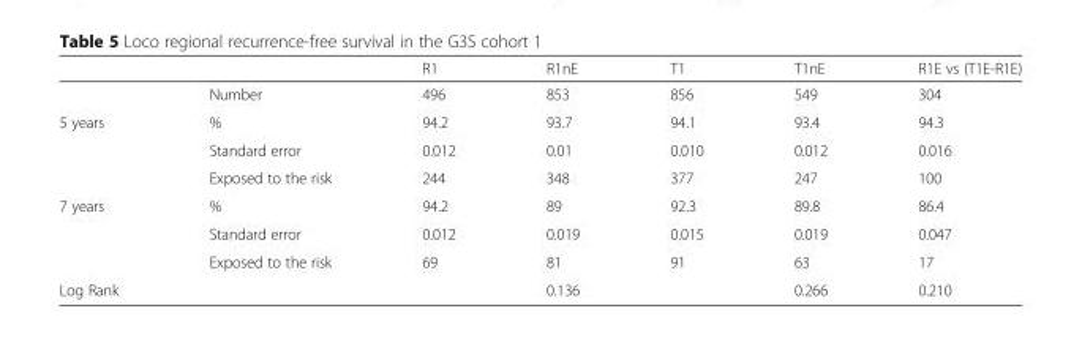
<table><thead><tr><td></td><td></td><td>R1</td><td>R1nE</td><td>T1</td><td>T1nE</td><td>R1E vs (T1E-R1E)</td></tr></thead><tbody><tr><td></td><td>Number</td><td>496</td><td>853</td><td>856</td><td>549</td><td>304</td></tr><tr><td rowspan="3">5 years</td><td>%</td><td>94.2</td><td>93.7</td><td>94.1</td><td>93.4</td><td>94.3</td></tr><tr><td>Standard error</td><td>0.012</td><td>0.01</td><td>0.010</td><td>0.012</td><td>0.016</td></tr><tr><td>Exposed to the risk</td><td>244</td><td>348</td><td>377</td><td>247</td><td>100</td></tr><tr><td rowspan="3">7 years</td><td>%</td><td>94.2</td><td>89</td><td>92.3</td><td>89.8</td><td>86.4</td></tr><tr><td>Standard error</td><td>0.012</td><td>0.019</td><td>0.015</td><td>0.019</td><td>0.047</td></tr><tr><td>Exposed to the risk</td><td>69</td><td>81</td><td>91</td><td>63</td><td>17</td></tr><tr><td>Log Rank</td><td></td><td></td><td>0.136</td><td></td><td>0.266</td><td>0.210</td></tr></tbody></table>